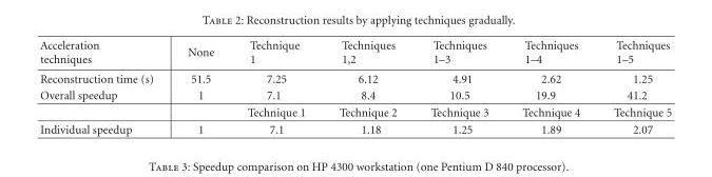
<table><tbody><tr><td>Acceleration techniques</td><td>None</td><td>Technique 1</td><td>Techniques 1,2</td><td>Techniques 1–3</td><td>Techniques 1–4</td><td>Techniques 1–5</td></tr><tr><td>Reconstruction time (s)</td><td>51.5</td><td>7.25</td><td>6.12</td><td>4.91</td><td>2.62</td><td>1.25</td></tr><tr><td rowspan="2">Overall speedup</td><td>1</td><td>7.1</td><td>8.4</td><td>10.5</td><td>19.9</td><td>41.2</td></tr><tr><td></td><td>Technique 1</td><td>Technique 2</td><td>Technique 3</td><td>Technique 4</td><td>Technique 5</td></tr><tr><td>Individual speedup</td><td>1</td><td>7.1</td><td>1.18</td><td>1.25</td><td>1.89</td><td>2.07</td></tr></tbody></table>